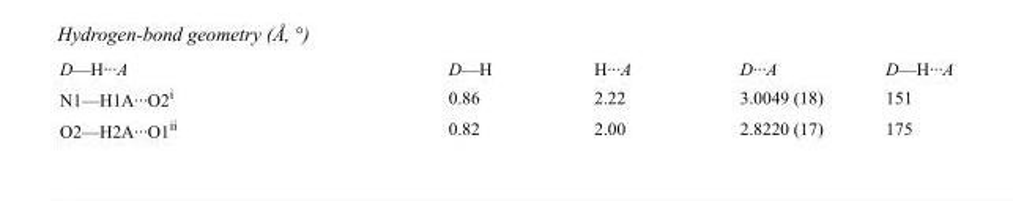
<table><tbody><tr><td>D—H···A</td><td>D—H</td><td>H···A</td><td>D···A</td><td>D—H···A</td></tr><tr><td>N1—H1A···O2<sup>i</sup></td><td>0.86</td><td>2.22</td><td>3.0049 (18)</td><td>151</td></tr><tr><td>O2—H2A···O1<sup>ii</sup></td><td>0.82</td><td>2.00</td><td>2.8220 (17)</td><td>175</td></tr></tbody></table>